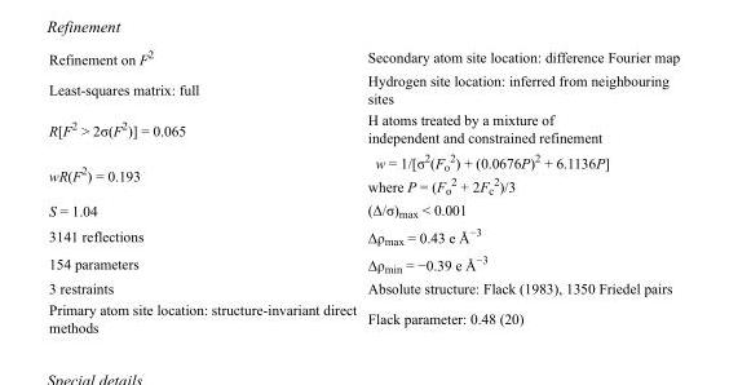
<table><tbody><tr><td>Refinement on F<sup>2</sup></td><td>Secondary atom site location: difference Fourier map</td></tr><tr><td>Least-squares matrix: full</td><td>Hydrogen site location: inferred from neighbouring sites</td></tr><tr><td>R[F<sup>2</sup> &gt; 2σ(F<sup>2</sup>)] = 0.065</td><td>H atoms treated by a mixture of independent and constrained refinement</td></tr><tr><td>wR(F<sup>2</sup>) = 0.193</td><td>w = 1/[σ<sup>2</sup>(F<sub>o</sub> <sup>2</sup>) + (0.0676P)<sup>2</sup> + 6.1136P] where P = (F<sub>o</sub> <sup>2</sup> + 2F<sub>c</sub> <sup>2</sup>)/3</td></tr><tr><td>S = 1.04</td><td>(Δ/σ)<sub>max</sub> &lt; 0.001</td></tr><tr><td>3141 reflections</td><td>Δρ<sub>max</sub> = 0.43 e Å<sup>−3</sup></td></tr><tr><td>154 parameters</td><td>Δρ<sub>min</sub> = −0.39 e Å<sup>−3</sup></td></tr><tr><td>3 restraints</td><td>Absolute structure: Flack (1983), 1350 Friedel pairs</td></tr><tr><td>Primary atom site location: structure-invariant direct methods</td><td>Flack parameter: 0.48 (20)</td></tr></tbody></table>